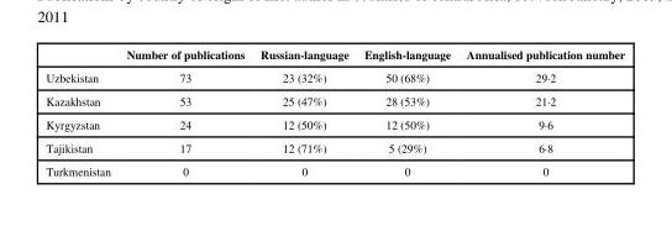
<table><thead><tr><td></td><td>Number of publications</td><td>Russian-language</td><td>English-language</td><td>Annualised publication number</td></tr></thead><tbody><tr><td>Uzbekistan</td><td>73</td><td>23 (32%)</td><td>50 (68%)</td><td>29·2</td></tr><tr><td>Kazakhstan</td><td>53</td><td>25 (47%)</td><td>28 (53%)</td><td>21·2</td></tr><tr><td>Kyrgyzstan</td><td>24</td><td>12 (50%)</td><td>12 (50%)</td><td>9·6</td></tr><tr><td>Tajikistan</td><td>17</td><td>12 (71%)</td><td>5 (29%)</td><td>6·8</td></tr><tr><td>Turkmenistan</td><td>0</td><td>0</td><td>0</td><td>0</td></tr></tbody></table>